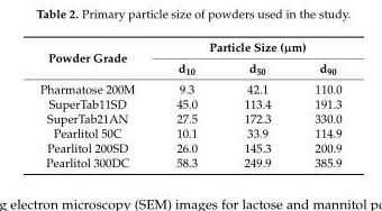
<table><thead><tr><td rowspan="2">Powder Grade</td><td colspan="3">Particle Size (µm)</td></tr><tr><td>d<sub>10</sub></td><td>d<sub>50</sub></td><td>d<sub>90</sub></td></tr></thead><tbody><tr><td>Pharmatose 200M</td><td>9.3</td><td>42.1</td><td>110.0</td></tr><tr><td>SuperTab11SD</td><td>45.0</td><td>113.4</td><td>191.3</td></tr><tr><td>SuperTab21AN</td><td>27.5</td><td>172.3</td><td>330.0</td></tr><tr><td>Pearlitol 50C</td><td>10.1</td><td>33.9</td><td>114.9</td></tr><tr><td>Pearlitol 200SD</td><td>26.0</td><td>145.3</td><td>200.9</td></tr><tr><td>Pearlitol 300DC</td><td>58.3</td><td>249.9</td><td>385.9</td></tr></tbody></table>